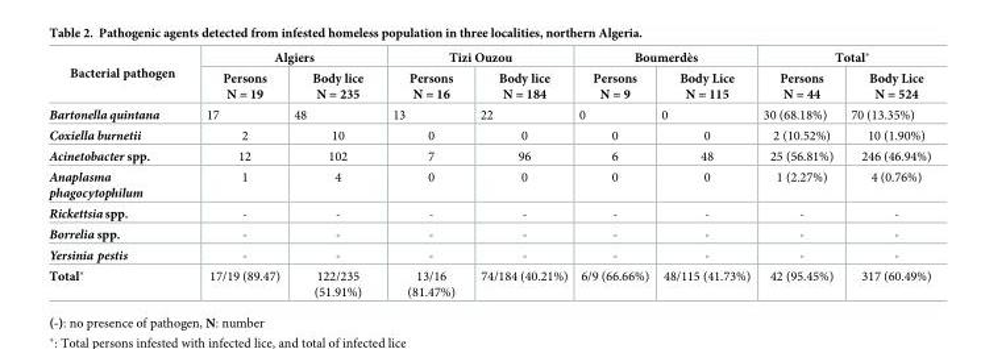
<table><thead><tr><td rowspan="2">Bacterial pathogen</td><td colspan="2">Algiers</td><td colspan="2">Tizi Ouzou</td><td colspan="2">Boumerdès</td><td colspan="2">Total*</td></tr><tr><td>Persons N = 19</td><td>Body lice N = 235</td><td>Persons N = 16</td><td>Body lice N = 184</td><td>Persons N = 9</td><td>Body Lice N = 115</td><td>Persons N = 44</td><td>Body Lice N = 524</td></tr></thead><tbody><tr><td>Bartonella quintana</td><td>17</td><td>48</td><td>13</td><td>22</td><td>0</td><td>0</td><td>30 (68.18%)</td><td>70 (13.35%)</td></tr><tr><td>Coxiella burnetii</td><td>2</td><td>10</td><td>0</td><td>0</td><td>0</td><td>0</td><td>2 (10.52%)</td><td>10 (1.90%)</td></tr><tr><td>Acinetobacter spp.</td><td>12</td><td>102</td><td>7</td><td>96</td><td>6</td><td>48</td><td>25 (56.81%)</td><td>246 (46.94%)</td></tr><tr><td>Anaplasma phagocytophilum</td><td>1</td><td>4</td><td>0</td><td>0</td><td>0</td><td>0</td><td>1 (2.27%)</td><td>4 (0.76%)</td></tr><tr><td>Rickettsia spp.</td><td>-</td><td>-</td><td>-</td><td>-</td><td>-</td><td>-</td><td>-</td><td>-</td></tr><tr><td>Borrelia spp.</td><td>-</td><td>-</td><td>-</td><td>-</td><td>-</td><td>-</td><td>-</td><td>-</td></tr><tr><td>Yersinia pestis</td><td>-</td><td>-</td><td>-</td><td>-</td><td>-</td><td>-</td><td>-</td><td>-</td></tr><tr><td>Total*</td><td>17/19 (89.47)</td><td>122/235 (51.91%)</td><td>13/16 (81.47%)</td><td>74/184 (40.21%)</td><td>6/9 (66.66%)</td><td>48/115 (41.73%)</td><td>42 (95.45%)</td><td>317 (60.49%)</td></tr></tbody></table>